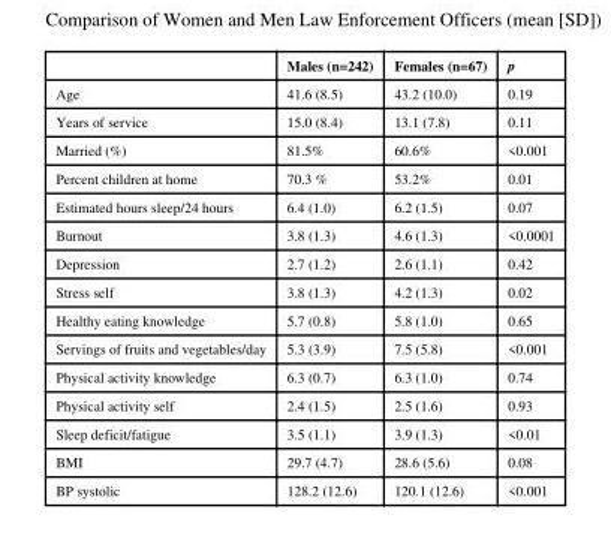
<table><thead><tr><td></td><td>Males (n=242)</td><td>Females (n=67)</td><td>p</td></tr></thead><tbody><tr><td>Age</td><td>41.6 (8.5)</td><td>43.2 (10.0)</td><td>0.19</td></tr><tr><td>Years of service</td><td>15.0 (8.4)</td><td>13.1 (7.8)</td><td>0.11</td></tr><tr><td>Married (%)</td><td>81.5%</td><td>60.6%</td><td>&lt;0.001</td></tr><tr><td>Percent children at home</td><td>70.3 %</td><td>53.2%</td><td>0.01</td></tr><tr><td>Estimated hours sleep/24 hours</td><td>6.4 (1.0)</td><td>6.2 (1.5)</td><td>0.07</td></tr><tr><td>Burnout</td><td>3.8 (1.3)</td><td>4.6 (1.3)</td><td>&lt;0.0001</td></tr><tr><td>Depression</td><td>2.7 (1.2)</td><td>2.6 (1.1)</td><td>0.42</td></tr><tr><td>Stress self</td><td>3.8 (1.3)</td><td>4.2 (1.3)</td><td>0.02</td></tr><tr><td>Healthy eating knowledge</td><td>5.7 (0.8)</td><td>5.8 (1.0)</td><td>0.65</td></tr><tr><td>Servings of fruits and vegetables/day</td><td>5.3 (3.9)</td><td>7.5 (5.8)</td><td>&lt;0.001</td></tr><tr><td>Physical activity knowledge</td><td>6.3 (0.7)</td><td>6.3 (1.0)</td><td>0.74</td></tr><tr><td>Physical activity self</td><td>2.4 (1.5)</td><td>2.5 (1.6)</td><td>0.93</td></tr><tr><td>Sleep deficit/fatigue</td><td>3.5 (1.1)</td><td>3.9 (1.3)</td><td>&lt;0.01</td></tr><tr><td>BMI</td><td>29.7 (4.7)</td><td>28.6 (5.6)</td><td>0.08</td></tr><tr><td>BP systolic</td><td>128.2 (12.6)</td><td>120.1 (12.6)</td><td>&lt;0.001</td></tr></tbody></table>